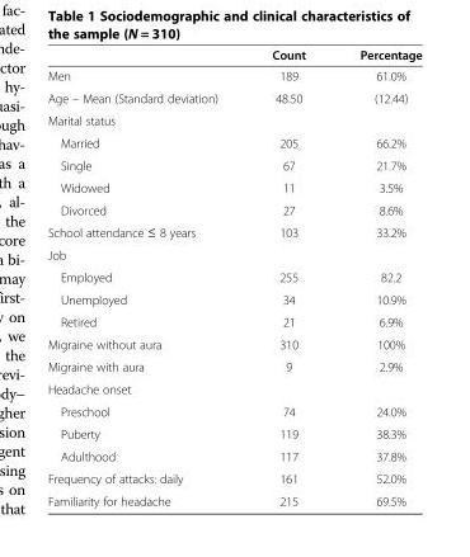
<table><thead><tr><td></td><td>Count</td><td>Percentage</td></tr></thead><tbody><tr><td>Men</td><td>189</td><td>61.0%</td></tr><tr><td>Age – Mean (Standard deviation)</td><td>48.50</td><td>(12.44)</td></tr><tr><td colspan="3">Marital status</td></tr><tr><td>Married</td><td>205</td><td>66.2%</td></tr><tr><td>Single</td><td>67</td><td>21.7%</td></tr><tr><td>Widowed</td><td>11</td><td>3.5%</td></tr><tr><td>Divorced</td><td>27</td><td>8.6%</td></tr><tr><td>School attendance ≤ 8 years</td><td>103</td><td>33.2%</td></tr><tr><td colspan="3">Job</td></tr><tr><td>Employed</td><td>255</td><td>82.2</td></tr><tr><td>Unemployed</td><td>34</td><td>10.9%</td></tr><tr><td>Retired</td><td>21</td><td>6.9%</td></tr><tr><td>Migraine without aura</td><td>310</td><td>100%</td></tr><tr><td>Migraine with aura</td><td>9</td><td>2.9%</td></tr><tr><td colspan="3">Headache onset</td></tr><tr><td>Preschool</td><td>74</td><td>24.0%</td></tr><tr><td>Puberty</td><td>119</td><td>38.3%</td></tr><tr><td>Adulthood</td><td>117</td><td>37.8%</td></tr><tr><td>Frequency of attacks: daily</td><td>161</td><td>52.0%</td></tr><tr><td>Familiarity for headache</td><td>215</td><td>69.5%</td></tr></tbody></table>